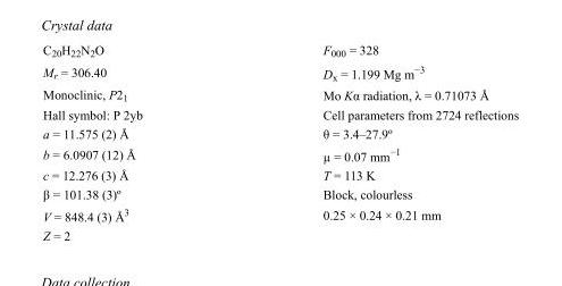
<table><tbody><tr><td>C<sub>20</sub>H<sub>22</sub>N<sub>2</sub>O</td><td>F000 = 328</td></tr><tr><td>M<sub>r</sub> = 306.40</td><td>D<sub>x</sub> = 1.199 Mg m<sup>−3</sup></td></tr><tr><td>Monoclinic, P2<sub>1</sub></td><td>Mo Kα radiation, λ = 0.71073 Å</td></tr><tr><td>Hall symbol: P 2yb</td><td>Cell parameters from 2724 reflections</td></tr><tr><td>a = 11.575 (2) Å</td><td>θ = 3.4–27.9º</td></tr><tr><td>b = 6.0907 (12) Å</td><td>µ = 0.07 mm<sup>−1</sup></td></tr><tr><td>c = 12.276 (3) Å</td><td>T = 113 K</td></tr><tr><td>β = 101.38 (3)º</td><td>Block, colourless</td></tr><tr><td>V = 848.4 (3) Å<sup>3</sup></td><td>0.25 × 0.24 × 0.21 mm</td></tr><tr><td>Z = 2</td><td></td></tr></tbody></table>